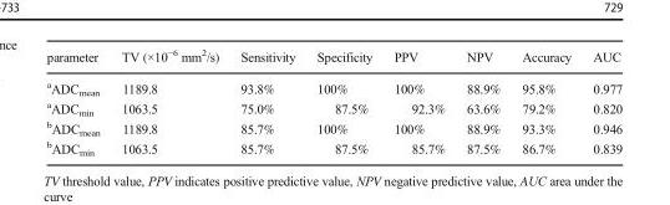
<table><thead><tr><td>parameter</td><td>TV (×10<sup>−6</sup> mm<sup>2</sup>/s)</td><td>Sensitivity</td><td>Specificity</td><td>PPV</td><td>NPV</td><td>Accuracy</td><td>AUC</td></tr></thead><tbody><tr><td><sup>a</sup>ADC<sub>mean</sub></td><td>1189.8</td><td>93.8%</td><td>100%</td><td>100%</td><td>88.9%</td><td>95.8%</td><td>0.977</td></tr><tr><td><sup>a</sup>ADC<sub>min</sub></td><td>1063.5</td><td>75.0%</td><td>87.5%</td><td>92.3%</td><td>63.6%</td><td>79.2%</td><td>0.820</td></tr><tr><td><sup>b</sup>ADC<sub>mean</sub></td><td>1189.8</td><td>85.7%</td><td>100%</td><td>100%</td><td>88.9%</td><td>93.3%</td><td>0.946</td></tr><tr><td><sup>b</sup>ADC<sub>min</sub></td><td>1063.5</td><td>85.7%</td><td>87.5%</td><td>85.7%</td><td>87.5%</td><td>86.7%</td><td>0.839</td></tr></tbody></table>